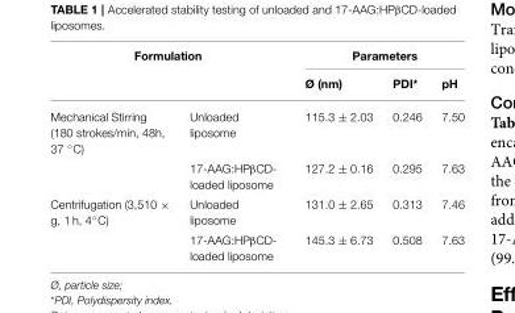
<table><thead><tr><td colspan="2">Formulation</td><td colspan="3">Parameters</td></tr><tr><td></td><td></td><td>Ø (nm)</td><td>PDI*</td><td>pH</td></tr></thead><tbody><tr><td rowspan="2">Mechanical Stirring (180 strokes/min, 48h, 37 ◦C)</td><td>Unloaded liposome</td><td>115.3 ± 2.03</td><td>0.246</td><td>7.50</td></tr><tr><td>17-AAG:HPβCD- loaded liposome</td><td>127.2 ± 0.16</td><td>0.295</td><td>7.63</td></tr><tr><td rowspan="2">Centrifugation (3,510 × g, 1 h, 4◦C)</td><td>Unloaded liposome</td><td>131.0 ± 2.65</td><td>0.313</td><td>7.46</td></tr><tr><td>17-AAG:HPβCD- loaded liposome</td><td>145.3 ± 6.73</td><td>0.508</td><td>7.63</td></tr></tbody></table>